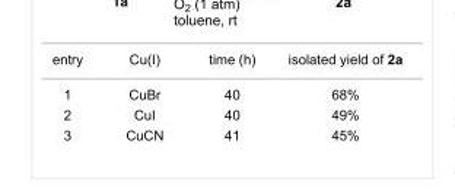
<table><tbody><tr><td>entry</td><td>Cu(I)</td><td>time (h)</td><td>isolated yield of 2a</td></tr><tr><td>1</td><td>CuBr</td><td>40</td><td>68%</td></tr><tr><td>2</td><td>CuI</td><td>40</td><td>49%</td></tr><tr><td>3</td><td>CuCN</td><td>41</td><td>45%</td></tr></tbody></table>